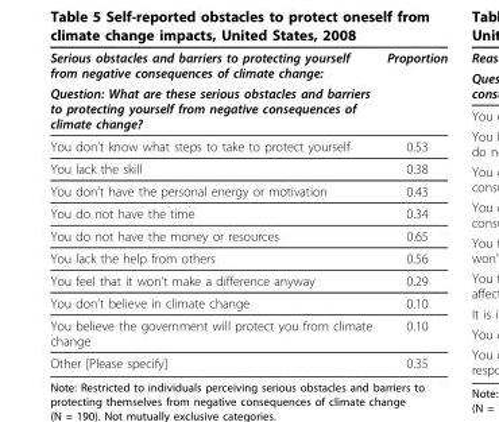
<table><thead><tr><td rowspan="2">Serious obstacles and barriers to protecting yourself from negative consequences of climate change: Question: What are these serious obstacles and barriers to protecting yourself from negative consequences of climate change?</td><td rowspan="2">Proportion</td></tr><tr></tr></thead><tbody><tr><td>You don’t know what steps to take to protect yourself</td><td>0.53</td></tr><tr><td>You lack the skill</td><td>0.38</td></tr><tr><td>You don’t have the personal energy or motivation</td><td>0.43</td></tr><tr><td>You do not have the time</td><td>0.34</td></tr><tr><td>You do not have the money or resources</td><td>0.65</td></tr><tr><td>You lack the help from others</td><td>0.56</td></tr><tr><td>You feel that it won’t make a difference anyway</td><td>0.29</td></tr><tr><td>You don’t believe in climate change</td><td>0.10</td></tr><tr><td>You believe the government will protect you from climate change</td><td>0.10</td></tr><tr><td>Other [Please specify]</td><td>0.35</td></tr></tbody></table>